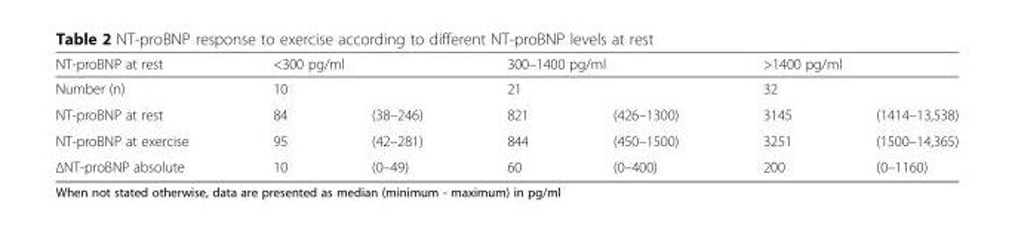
<table><thead><tr><td rowspan="3">NT-proBNP at rest Number (n) NT-proBNP at rest</td><td rowspan="2" colspan="2">&lt;300 pg/ml 10</td><td rowspan="2" colspan="2">300–1400 pg/ml 21</td><td rowspan="2" colspan="2">&gt;1400 pg/ml 32</td></tr><tr></tr><tr><td>84</td><td>(38–246)</td><td>821</td><td>(426–1300)</td><td>3145</td><td>(1414–13,538)</td></tr></thead><tbody><tr><td>NT-proBNP at exercise</td><td>95</td><td>(42–281)</td><td>844</td><td>(450–1500)</td><td>3251</td><td>(1500–14,365)</td></tr><tr><td>ΔNT-proBNP absolute</td><td>10</td><td>(0–49)</td><td>60</td><td>(0–400)</td><td>200</td><td>(0–1160)</td></tr></tbody></table>